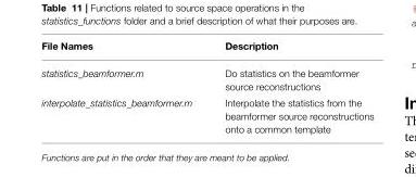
<table><thead><tr><td>File Names</td><td>Description</td></tr></thead><tbody><tr><td>statistics_beamformer.m</td><td>Do statistics on the beamformer source reconstructions</td></tr><tr><td>interpolate_statistics_beamformer.m</td><td>Interpolate the statistics from the beamformer source reconstructions onto a common template</td></tr></tbody></table>